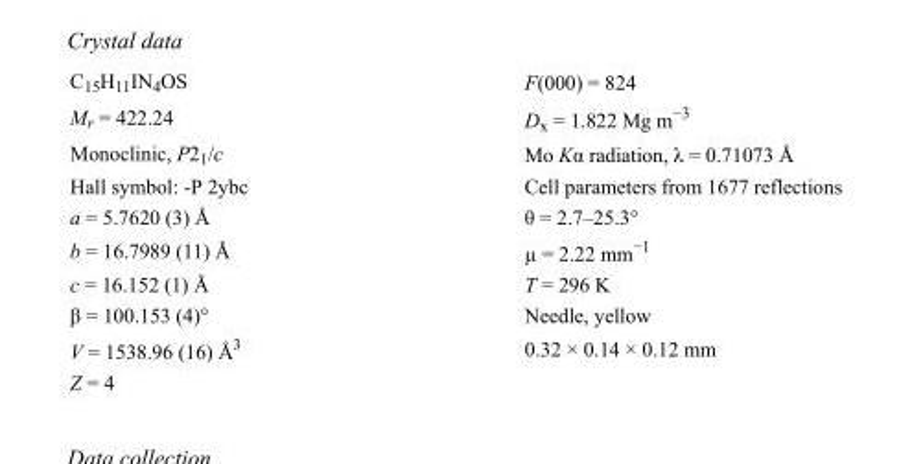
<table><tbody><tr><td>C<sub>15</sub>H<sub>11</sub>IN<sub>4</sub>OS</td><td>F(000) = 824</td></tr><tr><td>M<sub>r</sub> = 422.24</td><td>D<sub>x</sub> = 1.822 Mg m<sup>−3</sup></td></tr><tr><td>Monoclinic, P2<sub>1</sub>/c</td><td>Mo Kα radiation, λ = 0.71073 Å</td></tr><tr><td>Hall symbol: -P 2ybc</td><td>Cell parameters from 1677 reflections</td></tr><tr><td>a = 5.7620 (3) Å</td><td>θ = 2.7–25.3°</td></tr><tr><td>b = 16.7989 (11) Å</td><td>µ = 2.22 mm<sup>−1</sup></td></tr><tr><td>c = 16.152 (1) Å</td><td>T = 296 K</td></tr><tr><td>β = 100.153 (4)°</td><td>Needle, yellow</td></tr><tr><td>V = 1538.96 (16) Å<sup>3</sup></td><td>0.32 × 0.14 × 0.12 mm</td></tr><tr><td>Z = 4</td><td></td></tr></tbody></table>